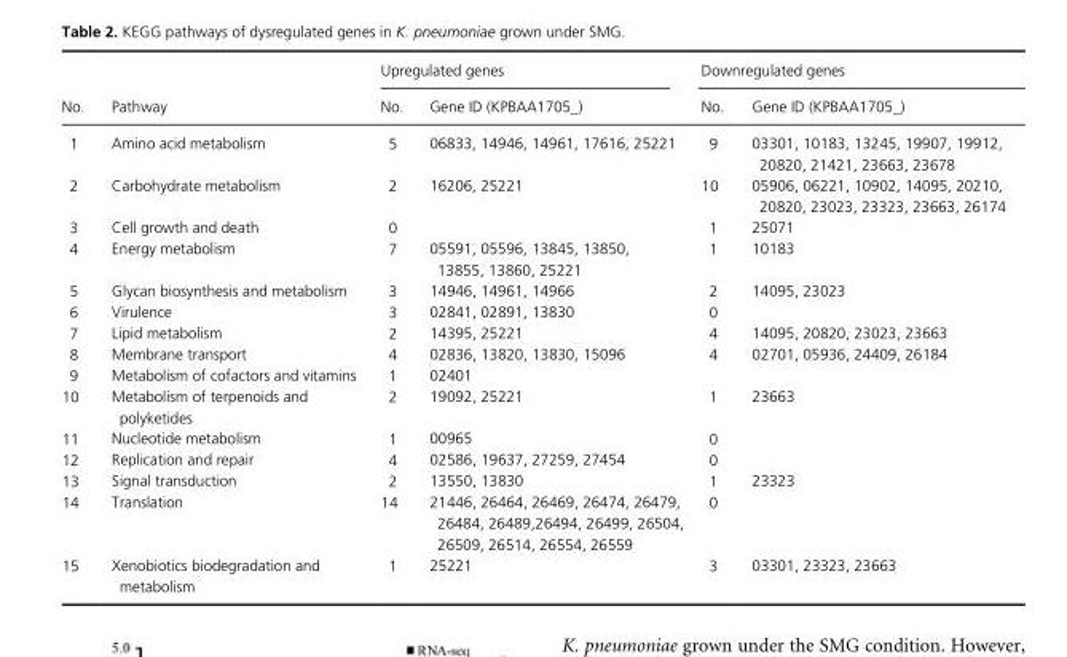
<table><thead><tr><td rowspan="2">No.</td><td rowspan="2">Pathway</td><td colspan="2">Upregulated genes</td><td colspan="2">Downregulated genes</td></tr><tr><td>No.</td><td>Gene ID (KPBAA1705_)</td><td>No.</td><td>Gene ID (KPBAA1705_)</td></tr></thead><tbody><tr><td>1</td><td>Amino acid metabolism</td><td>5</td><td>06833, 14946, 14961, 17616, 25221</td><td>9</td><td>03301, 10183, 13245, 19907, 19912, 20820, 21421, 23663, 23678</td></tr><tr><td>2</td><td>Carbohydrate metabolism</td><td>2</td><td>16206, 25221</td><td>10</td><td>05906, 06221, 10902, 14095, 20210, 20820, 23023, 23323, 23663, 26174</td></tr><tr><td>3</td><td>Cell growth and death</td><td>0</td><td></td><td>1</td><td>25071</td></tr><tr><td>4</td><td>Energy metabolism</td><td>7</td><td>05591, 05596, 13845, 13850, 13855, 13860, 25221</td><td>1</td><td>10183</td></tr><tr><td>5</td><td>Glycan biosynthesis and metabolism</td><td>3</td><td>14946, 14961, 14966</td><td>2</td><td>14095, 23023</td></tr><tr><td>6</td><td>Virulence</td><td>3</td><td>02841, 02891, 13830</td><td>0</td><td></td></tr><tr><td>7</td><td>Lipid metabolism</td><td>2</td><td>14395, 25221</td><td>4</td><td>14095, 20820, 23023, 23663</td></tr><tr><td>8</td><td>Membrane transport</td><td>4</td><td>02836, 13820, 13830, 15096</td><td>4</td><td>02701, 05936, 24409, 26184</td></tr><tr><td>9</td><td>Metabolism of cofactors and vitamins</td><td>1</td><td>02401</td><td></td><td></td></tr><tr><td>10</td><td>Metabolism of terpenoids and polyketides</td><td>2</td><td>19092, 25221</td><td>1</td><td>23663</td></tr><tr><td>11</td><td>Nucleotide metabolism</td><td>1</td><td>00965</td><td>0</td><td></td></tr><tr><td>12</td><td>Replication and repair</td><td>4</td><td>02586, 19637, 27259, 27454</td><td>0</td><td></td></tr><tr><td>13</td><td>Signal transduction</td><td>2</td><td>13550, 13830</td><td>1</td><td>23323</td></tr><tr><td>14</td><td>Translation</td><td>14</td><td>21446, 26464, 26469, 26474, 26479, 26484, 26489,26494, 26499, 26504, 26509, 26514, 26554, 26559</td><td>0</td><td></td></tr><tr><td>15</td><td>Xenobiotics biodegradation and metabolism</td><td>1</td><td>25221</td><td>3</td><td>03301, 23323, 23663</td></tr></tbody></table>